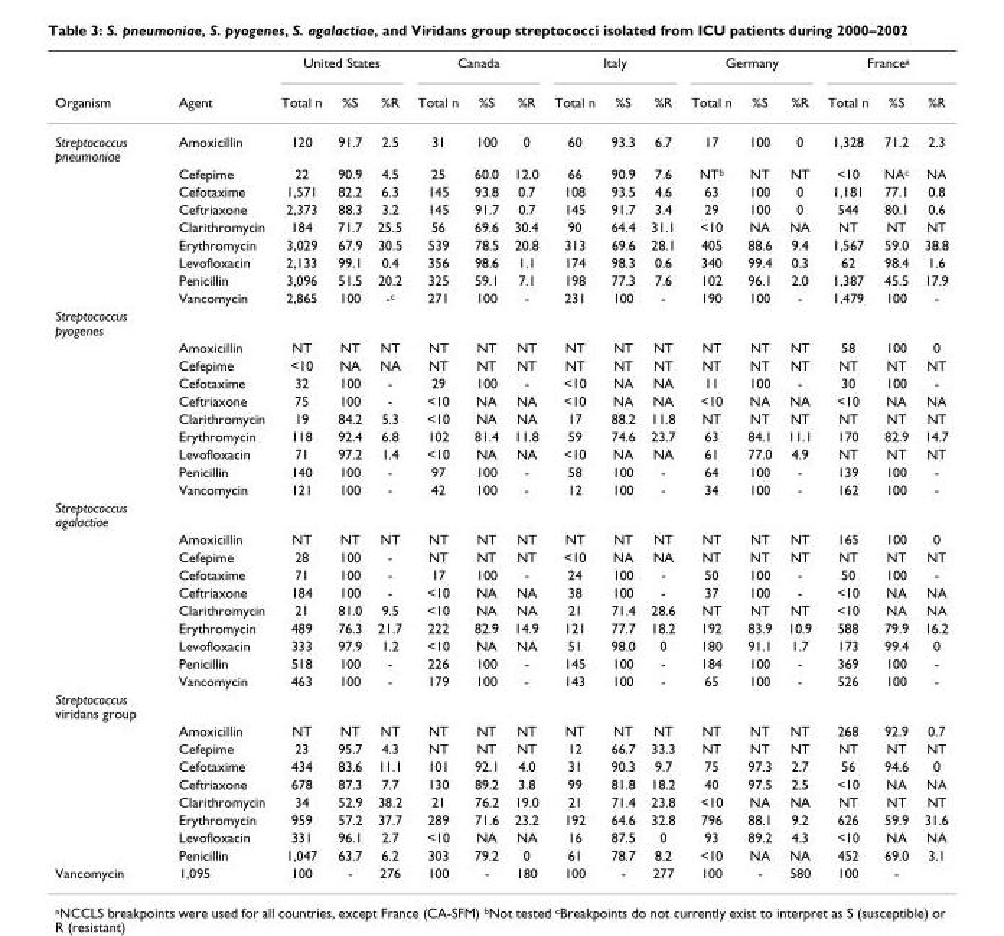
<table><thead><tr><td rowspan="2">Organism</td><td rowspan="2">Agent</td><td colspan="3">United States</td><td colspan="3">Canada</td><td colspan="3">Italy</td><td colspan="3">Germany</td><td colspan="3">France<sup>a</sup></td></tr><tr><td>Total n</td><td>%S</td><td>%R</td><td>Total n</td><td>%S</td><td>%R</td><td>Total n</td><td>%S</td><td>%R</td><td>Total n</td><td>%S</td><td>%R</td><td>Total n</td><td>%S</td><td>%R</td></tr></thead><tbody><tr><td rowspan="9">Streptococcus pneumoniae</td><td>Amoxicillin</td><td>120</td><td>91.7</td><td>2.5</td><td>31</td><td>100</td><td>0</td><td>60</td><td>93.3</td><td>6.7</td><td>17</td><td>100</td><td>0</td><td>1,328</td><td>71.2</td><td>2.3</td></tr><tr><td>Cefepime</td><td>22</td><td>90.9</td><td>4.5</td><td>25</td><td>60.0</td><td>12.0</td><td>66</td><td>90.9</td><td>7.6</td><td>NT<sup>b</sup></td><td>NT</td><td>NT</td><td>&lt;10</td><td>NA<sup>c</sup></td><td>NA</td></tr><tr><td>Cefotaxime</td><td>1,571</td><td>82.2</td><td>6.3</td><td>145</td><td>93.8</td><td>0.7</td><td>108</td><td>93.5</td><td>4.6</td><td>63</td><td>100</td><td>0</td><td>1,181</td><td>77.1</td><td>0.8</td></tr><tr><td>Ceftriaxone</td><td>2,373</td><td>88.3</td><td>3.2</td><td>145</td><td>91.7</td><td>0.7</td><td>145</td><td>91.7</td><td>3.4</td><td>29</td><td>100</td><td>0</td><td>544</td><td>80.1</td><td>0.6</td></tr><tr><td>Clarithromycin</td><td>184</td><td>71.7</td><td>25.5</td><td>56</td><td>69.6</td><td>30.4</td><td>90</td><td>64.4</td><td>31.1</td><td>&lt;10</td><td>NA</td><td>NA</td><td>NT</td><td>NT</td><td>NT</td></tr><tr><td>Erythromycin</td><td>3,029</td><td>67.9</td><td>30.5</td><td>539</td><td>78.5</td><td>20.8</td><td>313</td><td>69.6</td><td>28.1</td><td>405</td><td>88.6</td><td>9.4</td><td>1,567</td><td>59.0</td><td>38.8</td></tr><tr><td>Levofloxacin</td><td>2,133</td><td>99.1</td><td>0.4</td><td>356</td><td>98.6</td><td>1.1</td><td>174</td><td>98.3</td><td>0.6</td><td>340</td><td>99.4</td><td>0.3</td><td>62</td><td>98.4</td><td>1.6</td></tr><tr><td>Penicillin</td><td>3,096</td><td>51.5</td><td>20.2</td><td>325</td><td>59.1</td><td>7.1</td><td>198</td><td>77.3</td><td>7.6</td><td>102</td><td>96.1</td><td>2.0</td><td>1,387</td><td>45.5</td><td>17.9</td></tr><tr><td>Vancomycin</td><td>2,865</td><td>100</td><td>-<sup>c</sup></td><td>271</td><td>100</td><td>-</td><td>231</td><td>100</td><td>-</td><td>190</td><td>100</td><td>-</td><td>1,479</td><td>100</td><td>-</td></tr><tr><td colspan="17">Streptococcus pyogenes</td></tr><tr><td></td><td>Amoxicillin</td><td>NT</td><td>NT</td><td>NT</td><td>NT</td><td>NT</td><td>NT</td><td>NT</td><td>NT</td><td>NT</td><td>NT</td><td>NT</td><td>NT</td><td>58</td><td>100</td><td>0</td></tr><tr><td></td><td>Cefepime</td><td>&lt;10</td><td>NA</td><td>NA</td><td>NT</td><td>NT</td><td>NT</td><td>NT</td><td>NT</td><td>NT</td><td>NT</td><td>NT</td><td>NT</td><td>NT</td><td>NT</td><td>NT</td></tr><tr><td></td><td>Cefotaxime</td><td>32</td><td>100</td><td>-</td><td>29</td><td>100</td><td>-</td><td>&lt;10</td><td>NA</td><td>NA</td><td>11</td><td>100</td><td>-</td><td>30</td><td>100</td><td>-</td></tr><tr><td></td><td>Ceftriaxone</td><td>75</td><td>100</td><td>-</td><td>&lt;10</td><td>NA</td><td>NA</td><td>&lt;10</td><td>NA</td><td>NA</td><td>&lt;10</td><td>NA</td><td>NA</td><td>&lt;10</td><td>NA</td><td>NA</td></tr><tr><td></td><td>Clarithromycin</td><td>19</td><td>84.2</td><td>5.3</td><td>&lt;10</td><td>NA</td><td>NA</td><td>17</td><td>88.2</td><td>11.8</td><td>NT</td><td>NT</td><td>NT</td><td>NT</td><td>NT</td><td>NT</td></tr><tr><td></td><td>Erythromycin</td><td>118</td><td>92.4</td><td>6.8</td><td>102</td><td>81.4</td><td>11.8</td><td>59</td><td>74.6</td><td>23.7</td><td>63</td><td>84.1</td><td>11.1</td><td>170</td><td>82.9</td><td>14.7</td></tr><tr><td></td><td>Levofloxacin</td><td>71</td><td>97.2</td><td>1.4</td><td>&lt;10</td><td>NA</td><td>NA</td><td>&lt;10</td><td>NA</td><td>NA</td><td>61</td><td>77.0</td><td>4.9</td><td>NT</td><td>NT</td><td>NT</td></tr><tr><td></td><td>Penicillin</td><td>140</td><td>100</td><td>-</td><td>97</td><td>100</td><td>-</td><td>58</td><td>100</td><td>-</td><td>64</td><td>100</td><td>-</td><td>139</td><td>100</td><td>-</td></tr><tr><td></td><td>Vancomycin</td><td>121</td><td>100</td><td>-</td><td>42</td><td>100</td><td>-</td><td>12</td><td>100</td><td>-</td><td>34</td><td>100</td><td>-</td><td>162</td><td>100</td><td>-</td></tr><tr><td colspan="17">Streptococcus agalactiae</td></tr><tr><td></td><td>Amoxicillin</td><td>NT</td><td>NT</td><td>NT</td><td>NT</td><td>NT</td><td>NT</td><td>NT</td><td>NT</td><td>NT</td><td>NT</td><td>NT</td><td>NT</td><td>165</td><td>100</td><td>0</td></tr><tr><td></td><td>Cefepime</td><td>28</td><td>100</td><td>-</td><td>NT</td><td>NT</td><td>NT</td><td>&lt;10</td><td>NA</td><td>NA</td><td>NT</td><td>NT</td><td>NT</td><td>NT</td><td>NT</td><td>NT</td></tr><tr><td></td><td>Cefotaxime</td><td>71</td><td>100</td><td>-</td><td>17</td><td>100</td><td>-</td><td>24</td><td>100</td><td>-</td><td>50</td><td>100</td><td>-</td><td>50</td><td>100</td><td>-</td></tr><tr><td></td><td>Ceftriaxone</td><td>184</td><td>100</td><td>-</td><td>&lt;10</td><td>NA</td><td>NA</td><td>38</td><td>100</td><td>-</td><td>37</td><td>100</td><td>-</td><td>&lt;10</td><td>NA</td><td>NA</td></tr><tr><td></td><td>Clarithromycin</td><td>21</td><td>81.0</td><td>9.5</td><td>&lt;10</td><td>NA</td><td>NA</td><td>21</td><td>71.4</td><td>28.6</td><td>NT</td><td>NT</td><td>NT</td><td>&lt;10</td><td>NA</td><td>NA</td></tr><tr><td></td><td>Erythromycin</td><td>489</td><td>76.3</td><td>21.7</td><td>222</td><td>82.9</td><td>14.9</td><td>121</td><td>77.7</td><td>18.2</td><td>192</td><td>83.9</td><td>10.9</td><td>588</td><td>79.9</td><td>16.2</td></tr><tr><td></td><td>Levofloxacin</td><td>333</td><td>97.9</td><td>1.2</td><td>&lt;10</td><td>NA</td><td>NA</td><td>51</td><td>98.0</td><td>0</td><td>180</td><td>91.1</td><td>1.7</td><td>173</td><td>99.4</td><td>0</td></tr><tr><td></td><td>Penicillin</td><td>518</td><td>100</td><td>-</td><td>226</td><td>100</td><td>-</td><td>145</td><td>100</td><td>-</td><td>184</td><td>100</td><td>-</td><td>369</td><td>100</td><td>-</td></tr><tr><td></td><td>Vancomycin</td><td>463</td><td>100</td><td>-</td><td>179</td><td>100</td><td>-</td><td>143</td><td>100</td><td>-</td><td>65</td><td>100</td><td>-</td><td>526</td><td>100</td><td>-</td></tr><tr><td colspan="17">Streptococcus viridans group</td></tr><tr><td></td><td>Amoxicillin</td><td>NT</td><td>NT</td><td>NT</td><td>NT</td><td>NT</td><td>NT</td><td>NT</td><td>NT</td><td>NT</td><td>NT</td><td>NT</td><td>NT</td><td>268</td><td>92.9</td><td>0.7</td></tr><tr><td></td><td>Cefepime</td><td>23</td><td>95.7</td><td>4.3</td><td>NT</td><td>NT</td><td>NT</td><td>12</td><td>66.7</td><td>33.3</td><td>NT</td><td>NT</td><td>NT</td><td>NT</td><td>NT</td><td>NT</td></tr><tr><td></td><td>Cefotaxime</td><td>434</td><td>83.6</td><td>11.1</td><td>101</td><td>92.1</td><td>4.0</td><td>31</td><td>90.3</td><td>9.7</td><td>75</td><td>97.3</td><td>2.7</td><td>56</td><td>94.6</td><td>0</td></tr><tr><td></td><td>Ceftriaxone</td><td>678</td><td>87.3</td><td>7.7</td><td>130</td><td>89.2</td><td>3.8</td><td>99</td><td>81.8</td><td>18.2</td><td>40</td><td>97.5</td><td>2.5</td><td>&lt;10</td><td>NA</td><td>NA</td></tr><tr><td></td><td>Clarithromycin</td><td>34</td><td>52.9</td><td>38.2</td><td>21</td><td>76.2</td><td>19.0</td><td>21</td><td>71.4</td><td>23.8</td><td>&lt;10</td><td>NA</td><td>NA</td><td>NT</td><td>NT</td><td>NT</td></tr><tr><td></td><td>Erythromycin</td><td>959</td><td>57.2</td><td>37.7</td><td>289</td><td>71.6</td><td>23.2</td><td>192</td><td>64.6</td><td>32.8</td><td>796</td><td>88.1</td><td>9.2</td><td>626</td><td>59.9</td><td>31.6</td></tr><tr><td></td><td>Levofloxacin</td><td>331</td><td>96.1</td><td>2.7</td><td>&lt;10</td><td>NA</td><td>NA</td><td>16</td><td>87.5</td><td>0</td><td>93</td><td>89.2</td><td>4.3</td><td>&lt;10</td><td>NA</td><td>NA</td></tr><tr><td></td><td>Penicillin</td><td>1,047</td><td>63.7</td><td>6.2</td><td>303</td><td>79.2</td><td>0</td><td>61</td><td>78.7</td><td>8.2</td><td>&lt;10</td><td>NA</td><td>NA</td><td>452</td><td>69.0</td><td>3.1</td></tr><tr><td>Vancomycin</td><td>1,095</td><td>100</td><td>-</td><td>276</td><td>100</td><td>-</td><td>180</td><td>100</td><td>-</td><td>277</td><td>100</td><td>-</td><td>580</td><td>100</td><td>-</td><td></td></tr></tbody></table>